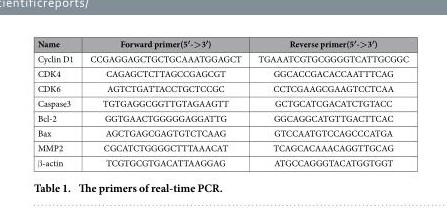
<table><thead><tr><td>Name</td><td>Forward primer(5′-&gt;3′)</td><td>Reverse primer(5′-&gt;3′)</td></tr></thead><tbody><tr><td>Cyclin D1</td><td>CCGAGGAGCTGCTGCAAATGGAGCT</td><td>TGAAATCGTGCGGGGTCATTGCGGC</td></tr><tr><td>CDK4</td><td>CAGAGCTCTTAGCCGAGCGT</td><td>GGCACCGACACCAATTTCAG</td></tr><tr><td>CDK6</td><td>AGTCTGATTACCTGCTCCGC</td><td>CCTCGAAGCGAAGTCCTCAA</td></tr><tr><td>Caspase3</td><td>TGTGAGGCGGTTGTAGAAGTT</td><td>GCTGCATCGACATCTGTACC</td></tr><tr><td>Bcl-2</td><td>GGTGAACTGGGGGAGGATTG</td><td>GGCAGGCATGTTGACTTCAC</td></tr><tr><td>Bax</td><td>AGCTGAGCGAGTGTCTCAAG</td><td>GTCCAATGTCCAGCCCATGA</td></tr><tr><td>MMP2</td><td>CGCATCTGGGGCTTTAAACAT</td><td>TCAGCACAAACAGGTTGCAG</td></tr><tr><td>β -actin</td><td>TCGTGCGTGACATTAAGGAG</td><td>ATGCCAGGGTACATGGTGGT</td></tr></tbody></table>